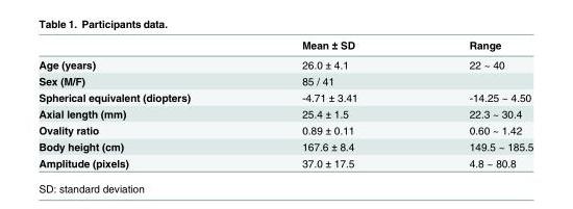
<table><thead><tr><td></td><td>Mean ± SD</td><td>Range</td></tr></thead><tbody><tr><td>Age (years)</td><td>26.0 ± 4.1</td><td>22 ~ 40</td></tr><tr><td>Sex (M/F)</td><td>85 / 41</td><td></td></tr><tr><td>Spherical equivalent (diopters)</td><td>-4.71 ± 3.41</td><td>-14.25 ~ 4.50</td></tr><tr><td>Axial length (mm)</td><td>25.4 ± 1.5</td><td>22.3 ~ 30.4</td></tr><tr><td>Ovality ratio</td><td>0.89 ± 0.11</td><td>0.60 ~ 1.42</td></tr><tr><td>Body height (cm)</td><td>167.6 ± 8.4</td><td>149.5 ~ 185.5</td></tr><tr><td>Amplitude (pixels)</td><td>37.0 ± 17.5</td><td>4.8 ~ 80.8</td></tr></tbody></table>